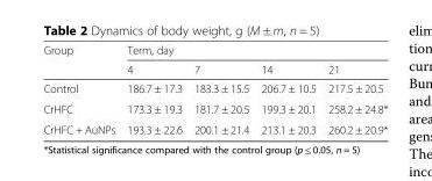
<table><thead><tr><td rowspan="2">Group</td><td colspan="4">Term, day</td></tr><tr><td>4</td><td>7</td><td>14</td><td>21</td></tr></thead><tbody><tr><td>Control</td><td>186.7 ± 17.3</td><td>183.3 ± 15.5</td><td>206.7 ± 10.5</td><td>217.5 ± 20.5</td></tr><tr><td>CrHFC</td><td>173.3 ± 19.3</td><td>181.7 ± 20.5</td><td>199.3 ± 20.1</td><td>258.2 ± 24.8*</td></tr><tr><td>CrHFC + AuNPs</td><td>193.3 ± 22.6</td><td>200.1 ± 21.4</td><td>213.1 ± 20.3</td><td>260.2 ± 20.9*</td></tr></tbody></table>